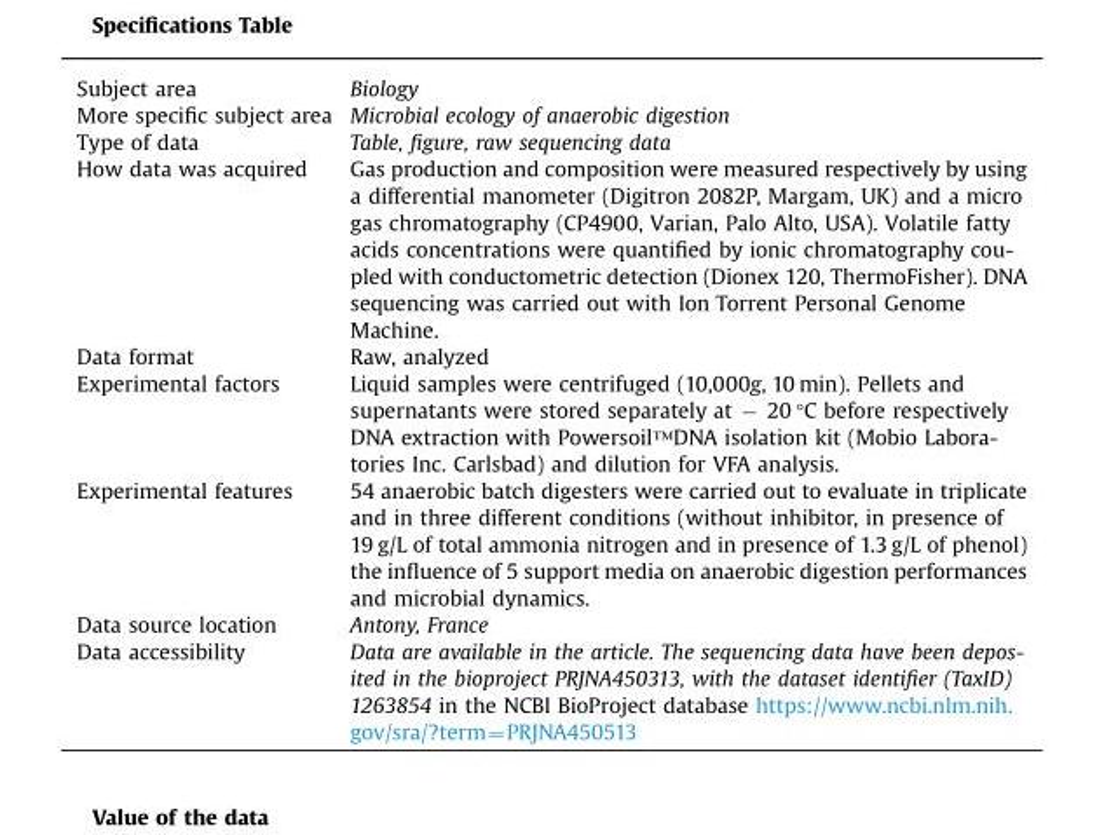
<table><thead><tr><td>Subject area</td><td>Biology</td></tr></thead><tbody><tr><td>More specific subject area</td><td>Microbial ecology of anaerobic digestion</td></tr><tr><td>Type of data</td><td>Table, figure, raw sequencing data</td></tr><tr><td>How data was acquired</td><td>Gas production and composition were measured respectively by using a differential manometer (Digitron 2082P, Margam, UK) and a micro gas chromatography (CP4900, Varian, Palo Alto, USA). Volatile fatty acids concentrations were quantified by ionic chromatography cou- pled with conductometric detection (Dionex 120, ThermoFisher). DNA sequencing was carried out with Ion Torrent Personal Genome Machine.</td></tr><tr><td>Data format</td><td>Raw, analyzed</td></tr><tr><td>Experimental factors</td><td>Liquid samples were centrifuged (10,000g, 10 min). Pellets and supernatants were stored separately at � 20 °C before respectively DNA extraction with Powersoil™DNA isolation kit (Mobio Labora- tories Inc. Carlsbad) and dilution for VFA analysis.</td></tr><tr><td>Experimental features</td><td>54 anaerobic batch digesters were carried out to evaluate in triplicate and in three different conditions (without inhibitor, in presence of 19 g/L of total ammonia nitrogen and in presence of 1.3 g/L of phenol) the influence of 5 support media on anaerobic digestion performances and microbial dynamics.</td></tr><tr><td>Data source location</td><td>Antony, France</td></tr><tr><td>Data accessibility</td><td>Data are available in the article. The sequencing data have been depos- ited in the bioproject PRJNA450313, with the dataset identifier (TaxID) 1263854 in the NCBI BioProject database https://www.ncbi.nlm.nih. gov/sra/?term¼PRJNA450513</td></tr></tbody></table>